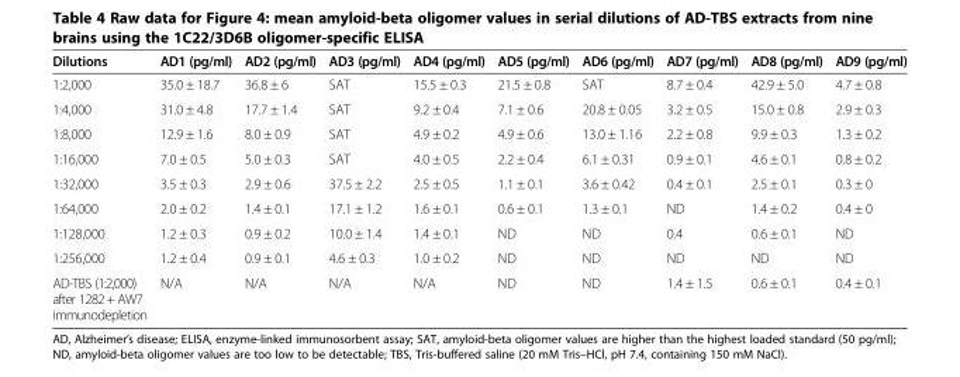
<table><thead><tr><td>Dilutions</td><td>AD1 (pg/ml)</td><td>AD2 (pg/ml)</td><td>AD3 (pg/ml)</td><td>AD4 (pg/ml)</td><td>AD5 (pg/ml)</td><td>AD6 (pg/ml)</td><td>AD7 (pg/ml)</td><td>AD8 (pg/ml)</td><td>AD9 (pg/ml)</td></tr></thead><tbody><tr><td>1:2,000</td><td>35.0 ± 18.7</td><td>36.8 ± 6</td><td>SAT</td><td>15.5 ± 0.3</td><td>21.5 ± 0.8</td><td>SAT</td><td>8.7 ± 0.4</td><td>42.9 ± 5.0</td><td>4.7 ± 0.8</td></tr><tr><td>1:4,000</td><td>31.0 ± 4.8</td><td>17.7 ± 1.4</td><td>SAT</td><td>9.2 ± 0.4</td><td>7.1 ± 0.6</td><td>20.8 ± 0.05</td><td>3.2 ± 0.5</td><td>15.0 ± 0.8</td><td>2.9 ± 0.3</td></tr><tr><td>1:8,000</td><td>12.9 ± 1.6</td><td>8.0 ± 0.9</td><td>SAT</td><td>4.9 ± 0.2</td><td>4.9 ± 0.6</td><td>13.0 ± 1.16</td><td>2.2 ± 0.8</td><td>9.9 ± 0.3</td><td>1.3 ± 0.2</td></tr><tr><td>1:16,000</td><td>7.0 ± 0.5</td><td>5.0 ± 0.3</td><td>SAT</td><td>4.0 ± 0.5</td><td>2.2 ± 0.4</td><td>6.1 ± 0.31</td><td>0.9 ± 0.1</td><td>4.6 ± 0.1</td><td>0.8 ± 0.2</td></tr><tr><td>1:32,000</td><td>3.5 ± 0.3</td><td>2.9 ± 0.6</td><td>37.5 ± 2.2</td><td>2.5 ± 0.5</td><td>1.1 ± 0.1</td><td>3.6 ± 0.42</td><td>0.4 ± 0.1</td><td>2.5 ± 0.1</td><td>0.3 ± 0</td></tr><tr><td>1:64,000</td><td>2.0 ± 0.2</td><td>1.4 ± 0.1</td><td>17.1 ± 1.2</td><td>1.6 ± 0.1</td><td>0.6 ± 0.1</td><td>1.3 ± 0.1</td><td>ND</td><td>1.4 ± 0.2</td><td>0.4 ± 0</td></tr><tr><td>1:128,000</td><td>1.2 ± 0.3</td><td>0.9 ± 0.2</td><td>10.0 ± 1.4</td><td>1.4 ± 0.1</td><td>ND</td><td>ND</td><td>0.4</td><td>0.6 ± 0.1</td><td>ND</td></tr><tr><td>1:256,000</td><td>1.2 ± 0.4</td><td>0.9 ± 0.1</td><td>4.6 ± 0.3</td><td>1.0 ± 0.2</td><td>ND</td><td>ND</td><td>ND</td><td>ND</td><td>ND</td></tr><tr><td>AD-TBS (1:2,000) after 1282 + AW7 immunodepletion</td><td>N/A</td><td>N/A</td><td>N/A</td><td>N/A</td><td>ND</td><td>ND</td><td>1.4 ± 1.5</td><td>0.6 ± 0.1</td><td>0.4 ± 0.1</td></tr></tbody></table>